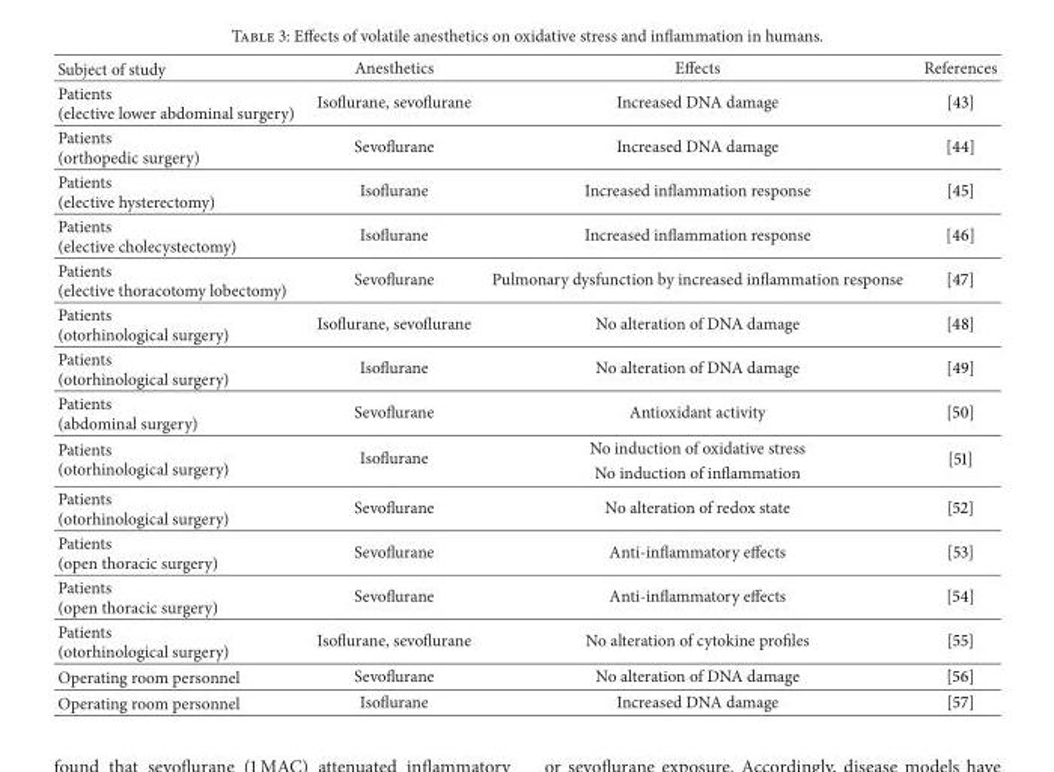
<table><thead><tr><td>Subject of study</td><td>Anesthetics</td><td>Effects</td><td>References</td></tr></thead><tbody><tr><td>Patients (elective lower abdominal surgery)</td><td>Isoflurane, sevoflurane</td><td>Increased DNA damage</td><td>[43]</td></tr><tr><td>Patients (orthopedic surgery)</td><td>Sevoflurane</td><td>Increased DNA damage</td><td>[44]</td></tr><tr><td>Patients (elective hysterectomy)</td><td>Isoflurane</td><td>Increased inflammation response</td><td>[45]</td></tr><tr><td>Patients (elective cholecystectomy)</td><td>Isoflurane</td><td>Increased inflammation response</td><td>[46]</td></tr><tr><td>Patients (elective thoracotomy lobectomy)</td><td>Sevoflurane</td><td>Pulmonary dysfunction by increased inflammation response</td><td>[47]</td></tr><tr><td>Patients (otorhinological surgery)</td><td>Isoflurane, sevoflurane</td><td>No alteration of DNA damage</td><td>[48]</td></tr><tr><td>Patients (otorhinological surgery)</td><td>Isoflurane</td><td>No alteration of DNA damage</td><td>[49]</td></tr><tr><td>Patients (abdominal surgery)</td><td>Sevoflurane</td><td>Antioxidant activity</td><td>[50]</td></tr><tr><td rowspan="2">Patients (otorhinological surgery)</td><td rowspan="2">Isoflurane</td><td>No induction of oxidative stress</td><td rowspan="2">[51]</td></tr><tr><td>No induction of inflammation</td></tr><tr><td>Patients (otorhinological surgery)</td><td>Sevoflurane</td><td>No alteration of redox state</td><td>[52]</td></tr><tr><td>Patients (open thoracic surgery)</td><td>Sevoflurane</td><td>Anti-inflammatory effects</td><td>[53]</td></tr><tr><td>Patients (open thoracic surgery)</td><td>Sevoflurane</td><td>Anti-inflammatory effects</td><td>[54]</td></tr><tr><td>Patients (otorhinological surgery)</td><td>Isoflurane, sevoflurane</td><td>No alteration of cytokine profiles</td><td>[55]</td></tr><tr><td>Operating room personnel</td><td>Sevoflurane</td><td>No alteration of DNA damage</td><td>[56]</td></tr><tr><td>Operating room personnel</td><td>Isoflurane</td><td>Increased DNA damage</td><td>[57]</td></tr></tbody></table>